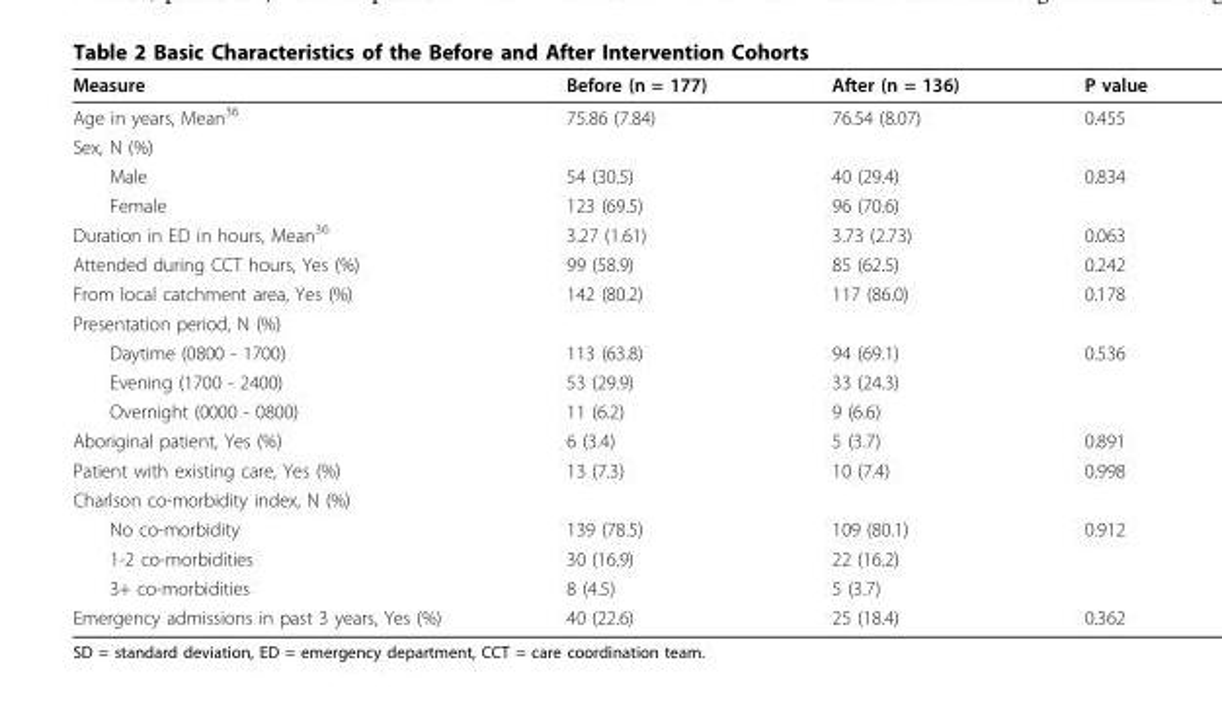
<table><thead><tr><td>Measure</td><td>Before (n = 177)</td><td>After (n = 136)</td><td>P value</td></tr></thead><tbody><tr><td>Age in years, Mean<sup>36</sup></td><td>75.86 (7.84)</td><td>76.54 (8.07)</td><td>0.455</td></tr><tr><td colspan="4">Sex, N (%)</td></tr><tr><td>Male</td><td>54 (30.5)</td><td>40 (29.4)</td><td>0.834</td></tr><tr><td>Female</td><td>123 (69.5)</td><td>96 (70.6)</td><td></td></tr><tr><td>Duration in ED in hours, Mean<sup>36</sup></td><td>3.27 (1.61)</td><td>3.73 (2.73)</td><td>0.063</td></tr><tr><td>Attended during CCT hours, Yes (%)</td><td>99 (58.9)</td><td>85 (62.5)</td><td>0.242</td></tr><tr><td>From local catchment area, Yes (%)</td><td>142 (80.2)</td><td>117 (86.0)</td><td>0.178</td></tr><tr><td colspan="4">Presentation period, N (%)</td></tr><tr><td>Daytime (0800 - 1700)</td><td>113 (63.8)</td><td>94 (69.1)</td><td>0.536</td></tr><tr><td>Evening (1700 - 2400)</td><td>53 (29.9)</td><td>33 (24.3)</td><td></td></tr><tr><td>Overnight (0000 - 0800)</td><td>11 (6.2)</td><td>9 (6.6)</td><td></td></tr><tr><td>Aboriginal patient, Yes (%)</td><td>6 (3.4)</td><td>5 (3.7)</td><td>0.891</td></tr><tr><td>Patient with existing care, Yes (%)</td><td>13 (7.3)</td><td>10 (7.4)</td><td>0.998</td></tr><tr><td colspan="4">Charlson co-morbidity index, N (%)</td></tr><tr><td>No co-morbidity</td><td>139 (78.5)</td><td>109 (80.1)</td><td>0.912</td></tr><tr><td>1-2 co-morbidities</td><td>30 (16.9)</td><td>22 (16.2)</td><td></td></tr><tr><td>3+ co-morbidities</td><td>8 (4.5)</td><td>5 (3.7)</td><td></td></tr><tr><td>Emergency admissions in past 3 years, Yes (%)</td><td>40 (22.6)</td><td>25 (18.4)</td><td>0.362</td></tr></tbody></table>